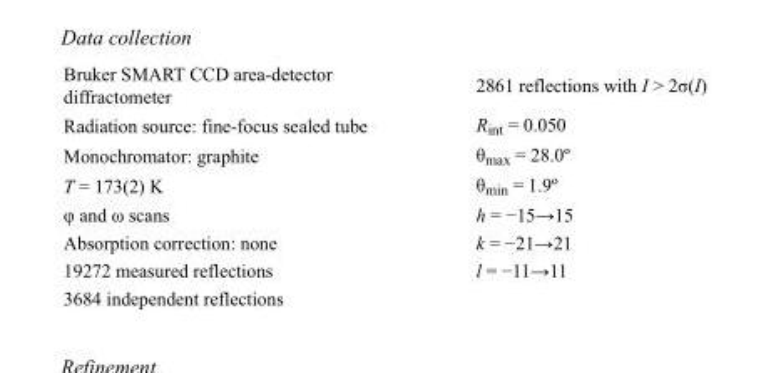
<table><tbody><tr><td>Bruker SMART CCD area-detector diffractometer</td><td>2861 reflections with I &gt; 2σ(I)</td></tr><tr><td>Radiation source: fine-focus sealed tube</td><td>R<sub>int</sub> = 0.050</td></tr><tr><td>Monochromator: graphite</td><td>θ<sub>max</sub> = 28.0º</td></tr><tr><td>T = 173(2) K</td><td>θ<sub>min</sub> = 1.9º</td></tr><tr><td>φ and ω scans</td><td>h = −15→15</td></tr><tr><td>Absorption correction: none</td><td>k = −21→21</td></tr><tr><td>19272 measured reflections</td><td>l = −11→11</td></tr><tr><td>3684 independent reflections</td><td></td></tr></tbody></table>